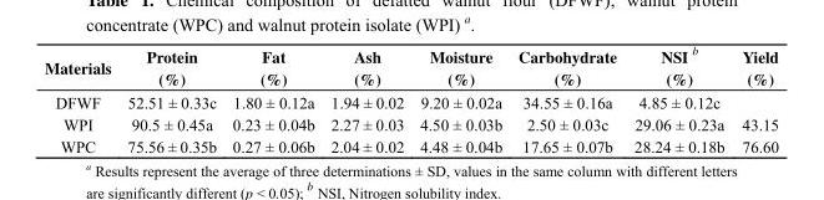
<table><thead><tr><td>Materials</td><td>Protein (%)</td><td>Fat (%)</td><td>Ash (%)</td><td>Moisture (%)</td><td>Carbohydrate (%)</td><td>NSI b (%)</td><td>Yield (%)</td></tr></thead><tbody><tr><td>DFWF</td><td>52.51 ± 0.33c</td><td>1.80 ± 0.12a</td><td>1.94 ± 0.02</td><td>9.20 ± 0.02a</td><td>34.55 ± 0.16a</td><td>4.85 ± 0.12c</td><td></td></tr><tr><td>WPI</td><td>90.5 ± 0.45a</td><td>0.23 ± 0.04b</td><td>2.27 ± 0.03</td><td>4.50 ± 0.03b</td><td>2.50 ± 0.03c</td><td>29.06 ± 0.23a</td><td>43.15</td></tr><tr><td>WPC</td><td>75.56 ± 0.35b</td><td>0.27 ± 0.06b</td><td>2.04 ± 0.02</td><td>4.48 ± 0.04b</td><td>17.65 ± 0.07b</td><td>28.24 ± 0.18b</td><td>76.60</td></tr></tbody></table>